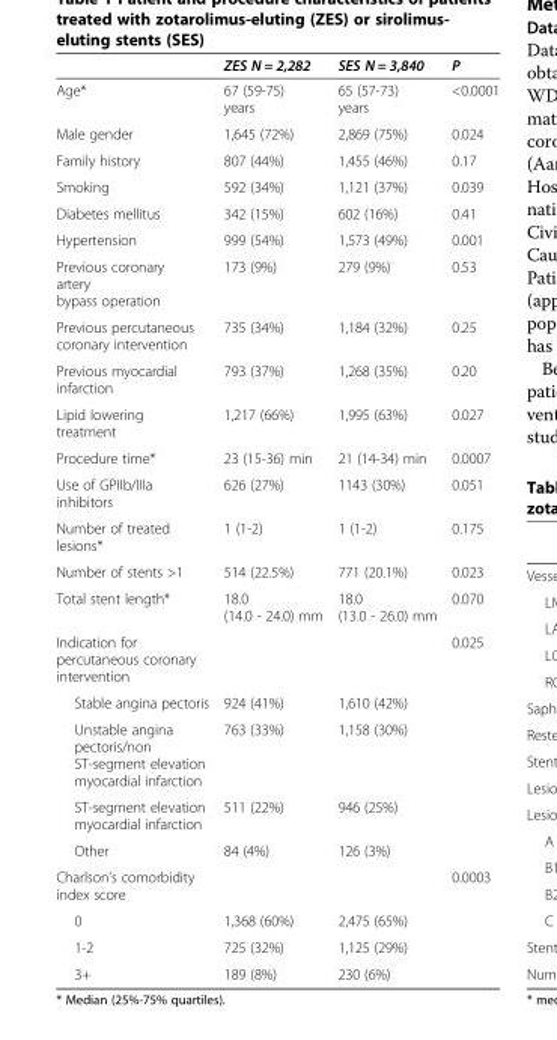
<table><thead><tr><td></td><td>ZES N = 2,282</td><td>SES N = 3,840</td><td>P</td></tr></thead><tbody><tr><td>Age*</td><td>67 (59-75) years</td><td>65 (57-73) years</td><td>&lt;0.0001</td></tr><tr><td>Male gender</td><td>1,645 (72%)</td><td>2,869 (75%)</td><td>0.024</td></tr><tr><td>Family history</td><td>807 (44%)</td><td>1,455 (46%)</td><td>0.17</td></tr><tr><td>Smoking</td><td>592 (34%)</td><td>1,121 (37%)</td><td>0.039</td></tr><tr><td>Diabetes mellitus</td><td>342 (15%)</td><td>602 (16%)</td><td>0.41</td></tr><tr><td>Hypertension</td><td>999 (54%)</td><td>1,573 (49%)</td><td>0.001</td></tr><tr><td>Previous coronary artery bypass operation</td><td>173 (9%)</td><td>279 (9%)</td><td>0.53</td></tr><tr><td>Previous percutaneous coronary intervention</td><td>735 (34%)</td><td>1,184 (32%)</td><td>0.25</td></tr><tr><td>Previous myocardial infarction</td><td>793 (37%)</td><td>1,268 (35%)</td><td>0.20</td></tr><tr><td>Lipid lowering treatment</td><td>1,217 (66%)</td><td>1,995 (63%)</td><td>0.027</td></tr><tr><td>Procedure time*</td><td>23 (15-36) min</td><td>21 (14-34) min</td><td>0.0007</td></tr><tr><td>Use of GPIIb/IIIa inhibitors</td><td>626 (27%)</td><td>1143 (30%)</td><td>0.051</td></tr><tr><td>Number of treated lesions*</td><td>1 (1-2)</td><td>1 (1-2)</td><td>0.175</td></tr><tr><td>Number of stents &gt;1</td><td>514 (22.5%)</td><td>771 (20.1%)</td><td>0.023</td></tr><tr><td>Total stent length*</td><td>18.0 (14.0 - 24.0) mm</td><td>18.0 (13.0 - 26.0) mm</td><td>0.070</td></tr><tr><td>Indication for percutaneous coronary intervention</td><td></td><td></td><td>0.025</td></tr><tr><td>Stable angina pectoris</td><td>924 (41%)</td><td>1,610 (42%)</td><td></td></tr><tr><td>Unstable angina pectoris/non ST-segment elevation myocardial infarction</td><td>763 (33%)</td><td>1,158 (30%)</td><td></td></tr><tr><td>ST-segment elevation myocardial infarction</td><td>511 (22%)</td><td>946 (25%)</td><td></td></tr><tr><td>Other</td><td>84 (4%)</td><td>126 (3%)</td><td></td></tr><tr><td>Charlson’s comorbidity index score</td><td></td><td></td><td>0.0003</td></tr><tr><td>0</td><td>1,368 (60%)</td><td>2,475 (65%)</td><td></td></tr><tr><td>1-2</td><td>725 (32%)</td><td>1,125 (29%)</td><td></td></tr><tr><td>3+</td><td>189 (8%)</td><td>230 (6%)</td><td></td></tr></tbody></table>